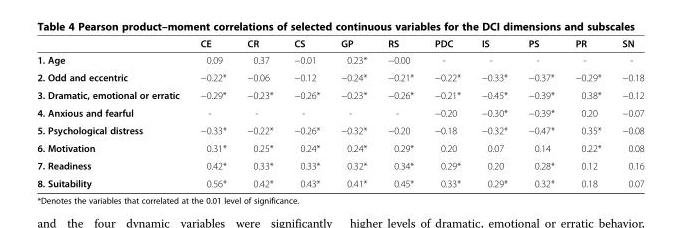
<table><thead><tr><td></td><td>CE</td><td>CR</td><td>CS</td><td>GP</td><td>RS</td><td>PDC</td><td>IS</td><td>PS</td><td>PR</td><td>SN</td></tr></thead><tbody><tr><td>1. Age</td><td>0.09</td><td>0.37</td><td>−0.01</td><td>0.23*</td><td>−0.00</td><td>-</td><td>-</td><td>-</td><td>-</td><td>-</td></tr><tr><td>2. Odd and eccentric</td><td>−0.22*</td><td>−0.06</td><td>−0.12</td><td>−0.24*</td><td>−0.21*</td><td>−0.22*</td><td>−0.33*</td><td>−0.37*</td><td>−0.29*</td><td>−0.18</td></tr><tr><td>3. Dramatic, emotional or erratic</td><td>−0.29*</td><td>−0.23*</td><td>−0.26*</td><td>−0.23*</td><td>−0.26*</td><td>−0.21*</td><td>−0.45*</td><td>−0.39*</td><td>0.38*</td><td>−0.12</td></tr><tr><td>4. Anxious and fearful</td><td>-</td><td>-</td><td>-</td><td>-</td><td>-</td><td>−0.20</td><td>−0.30*</td><td>−0.39*</td><td>0.20</td><td>−0.07</td></tr><tr><td>5. Psychological distress</td><td>−0.33*</td><td>−0.22*</td><td>−0.26*</td><td>−0.32*</td><td>−0.20</td><td>−0.18</td><td>−0.32*</td><td>−0.47*</td><td>0.35*</td><td>−0.08</td></tr><tr><td>6. Motivation</td><td>0.31*</td><td>0.25*</td><td>0.24*</td><td>0.24*</td><td>0.29*</td><td>0.20</td><td>0.07</td><td>0.14</td><td>0.22*</td><td>0.08</td></tr><tr><td>7. Readiness</td><td>0.42*</td><td>0.33*</td><td>0.33*</td><td>0.32*</td><td>0.34*</td><td>0.29*</td><td>0.20</td><td>0.28*</td><td>0.12</td><td>0.16</td></tr><tr><td>8. Suitability</td><td>0.56*</td><td>0.42*</td><td>0.43*</td><td>0.41*</td><td>0.45*</td><td>0.33*</td><td>0.29*</td><td>0.32*</td><td>0.18</td><td>0.07</td></tr></tbody></table>